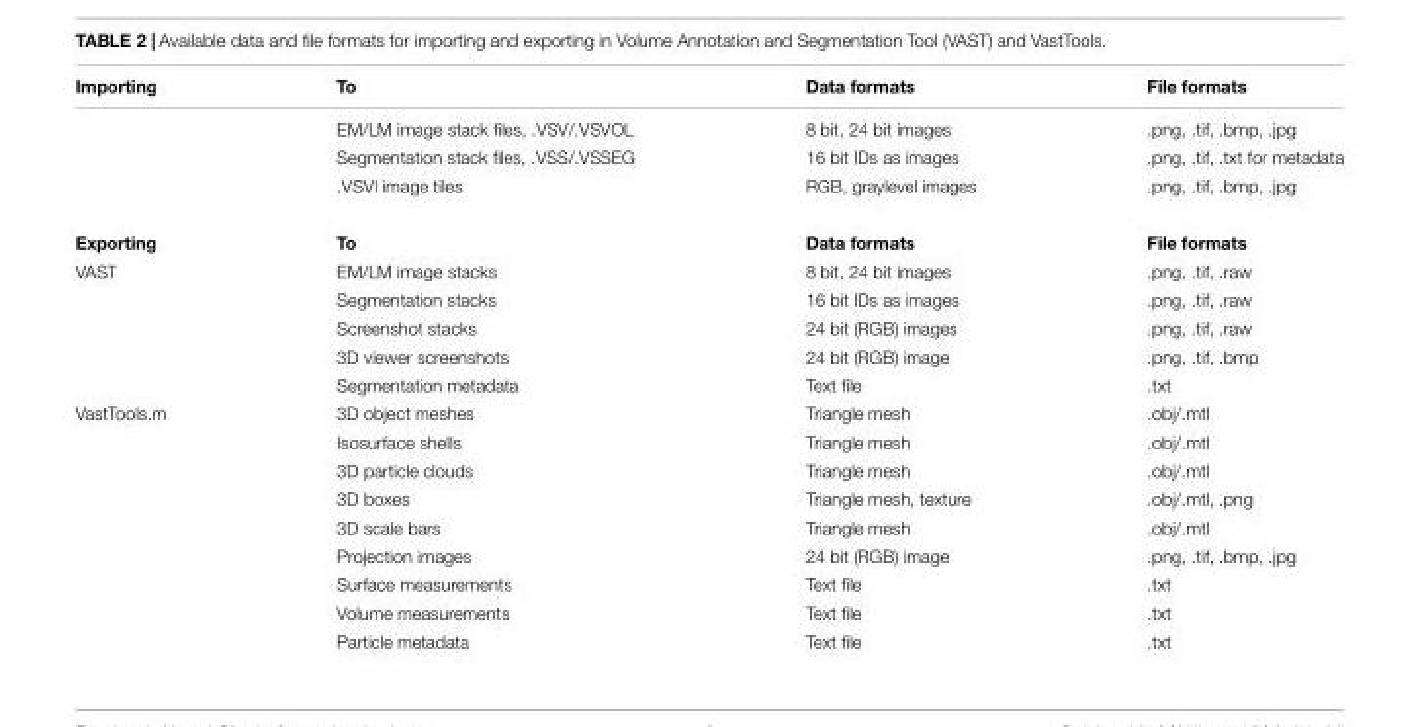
<table><thead><tr><td>Importing</td><td>To</td><td>Data formats</td><td>File formats</td></tr></thead><tbody><tr><td></td><td>EM/LM image stack files, .VSV/.VSVOL</td><td>8 bit, 24 bit images</td><td>.png, .tif, .bmp, .jpg</td></tr><tr><td></td><td>Segmentation stack files, .VSS/.VSSEG</td><td>16 bit IDs as images</td><td>.png, .tif, .txt for metadata</td></tr><tr><td></td><td>.VSVI image tiles</td><td>RGB, graylevel images</td><td>.png, .tif, .bmp, .jpg</td></tr><tr><td>Exporting</td><td>To</td><td>Data formats</td><td>File formats</td></tr><tr><td rowspan="5">VAST</td><td>EM/LM image stacks</td><td>8 bit, 24 bit images</td><td>.png, .tif, .raw</td></tr><tr><td>Segmentation stacks</td><td>16 bit IDs as images</td><td>.png, .tif, .raw</td></tr><tr><td>Screenshot stacks</td><td>24 bit (RGB) images</td><td>.png, .tif, .raw</td></tr><tr><td>3D viewer screenshots</td><td>24 bit (RGB) image</td><td>.png, .tif, .bmp</td></tr><tr><td>Segmentation metadata</td><td>Text file</td><td>.txt</td></tr><tr><td rowspan="9">VastTools.m</td><td>3D object meshes</td><td>Triangle mesh</td><td>.obj/.mtl</td></tr><tr><td>Isosurface shells</td><td>Triangle mesh</td><td>.obj/.mtl</td></tr><tr><td>3D particle clouds</td><td>Triangle mesh</td><td>.obj/.mtl</td></tr><tr><td>3D boxes</td><td>Triangle mesh, texture</td><td>.obj/.mtl, .png</td></tr><tr><td>3D scale bars</td><td>Triangle mesh</td><td>.obj/.mtl</td></tr><tr><td>Projection images</td><td>24 bit (RGB) image</td><td>.png, .tif, .bmp, .jpg</td></tr><tr><td>Surface measurements</td><td>Text file</td><td>.txt</td></tr><tr><td>Volume measurements</td><td>Text file</td><td>.txt</td></tr><tr><td>Particle metadata</td><td>Text file</td><td>.txt</td></tr></tbody></table>